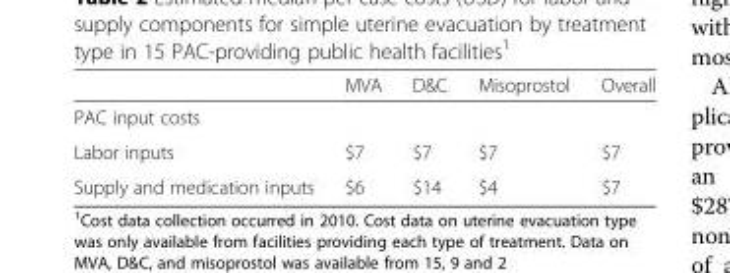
<table><thead><tr><td></td><td>MVA</td><td>D&amp;C</td><td>Misoprostol</td><td>Overall</td></tr></thead><tbody><tr><td colspan="5">PAC input costs</td></tr><tr><td>Labor inputs</td><td>$7</td><td>$7</td><td>$7</td><td>$7</td></tr><tr><td>Supply and medication inputs</td><td>$6</td><td>$14</td><td>$4</td><td>$7</td></tr></tbody></table>